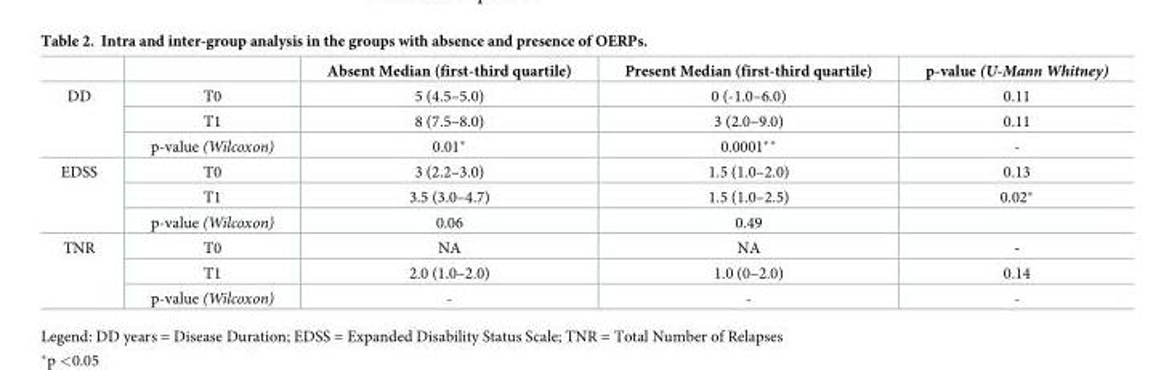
<table><thead><tr><td></td><td></td><td>Absent Median (first-third quartile)</td><td>Present Median (first-third quartile)</td><td>p-value (U-Mann Whitney)</td></tr></thead><tbody><tr><td rowspan="3">DD</td><td>T0</td><td>5 (4.5–5.0)</td><td>0 (-1.0–6.0)</td><td>0.11</td></tr><tr><td>T1</td><td>8 (7.5–8.0)</td><td>3 (2.0–9.0)</td><td>0.11</td></tr><tr><td>p-value (Wilcoxon)</td><td>0.01*</td><td>0.0001**</td><td>-</td></tr><tr><td rowspan="3">EDSS</td><td>T0</td><td>3 (2.2–3.0)</td><td>1.5 (1.0–2.0)</td><td>0.13</td></tr><tr><td>T1</td><td>3.5 (3.0–4.7)</td><td>1.5 (1.0–2.5)</td><td>0.02*</td></tr><tr><td>p-value (Wilcoxon)</td><td>0.06</td><td>0.49</td><td></td></tr><tr><td rowspan="3">TNR</td><td>T0</td><td>NA</td><td>NA</td><td>-</td></tr><tr><td>T1</td><td>2.0 (1.0–2.0)</td><td>1.0 (0–2.0)</td><td>0.14</td></tr><tr><td>p-value (Wilcoxon)</td><td>-</td><td>-</td><td>-</td></tr></tbody></table>